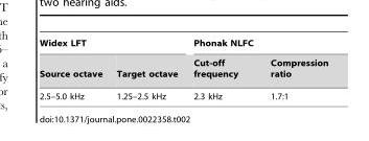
<table><thead><tr><td colspan="2">Widex LFT</td><td colspan="2">Phonak NLFC</td></tr><tr><td>Source octave</td><td>Target octave</td><td>Cut-off frequency</td><td>Compression ratio</td></tr></thead><tbody><tr><td>2.5–5.0 kHz</td><td>1.25–2.5 kHz</td><td>2.3 kHz</td><td>1.7:1</td></tr></tbody></table>